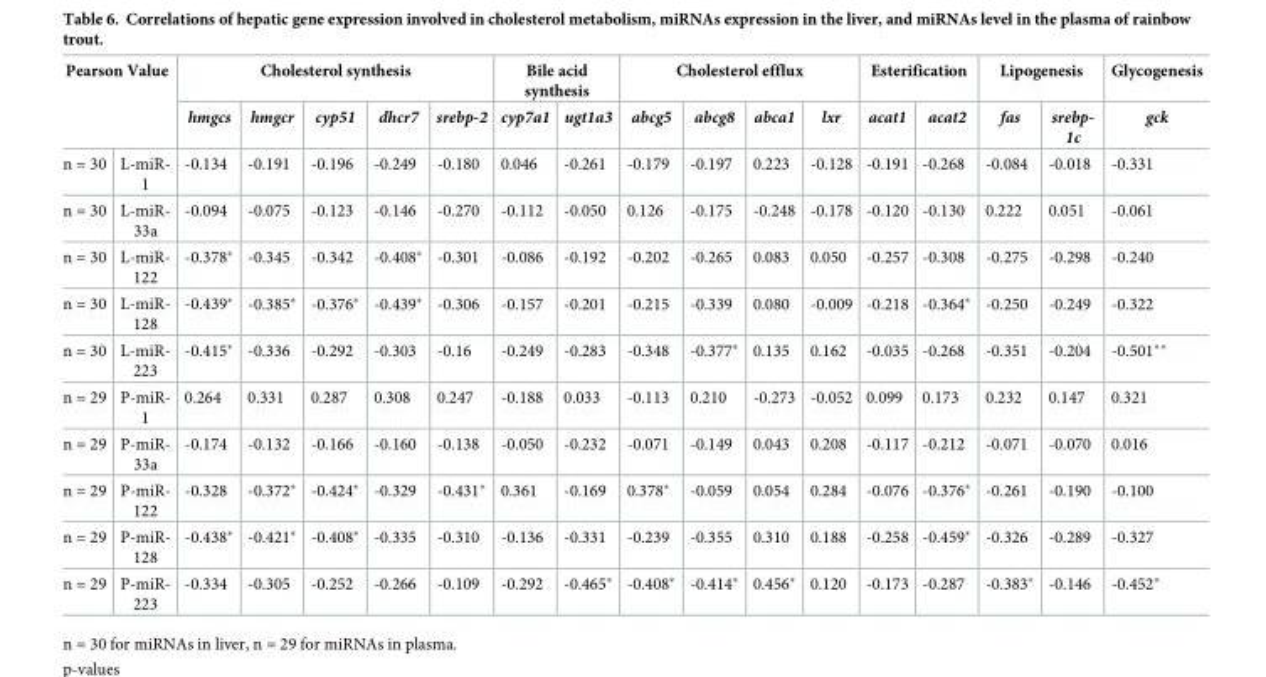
<table><thead><tr><td rowspan="2" colspan="2">Pearson Value</td><td colspan="5">Cholesterol synthesis</td><td colspan="2">Bile acid synthesis</td><td colspan="4">Cholesterol efflux</td><td colspan="2">Esterification</td><td colspan="2">Lipogenesis</td><td rowspan="3">Glycogenesis gck -0.331</td></tr><tr><td rowspan="2">hmgcs -0.134</td><td rowspan="2">hmgcr -0.191</td><td rowspan="2">cyp51 -0.196</td><td rowspan="2">dhcr7 -0.249</td><td rowspan="2">srebp-2 -0.180</td><td rowspan="2">cyp7a1 0.046</td><td rowspan="2">ugt1a3 -0.261</td><td rowspan="2">abcg5 -0.179</td><td rowspan="2">abcg8 -0.197</td><td rowspan="2">abca1 0.223</td><td rowspan="2">lxr -0.128</td><td rowspan="2">acat1 -0.191</td><td rowspan="2">acat2 -0.268</td><td rowspan="2">fas -0.084</td><td rowspan="2">srebp- 1c -0.018</td></tr><tr><td>n = 30</td><td>L-miR- 1</td></tr></thead><tbody><tr><td>n = 30</td><td>L-miR- 33a</td><td>-0.094</td><td>-0.075</td><td>-0.123</td><td>-0.146</td><td>-0.270</td><td>-0.112</td><td>-0.050</td><td>0.126</td><td>-0.175</td><td>-0.248</td><td>-0.178</td><td>-0.120</td><td>-0.130</td><td>0.222</td><td>0.051</td><td>-0.061</td></tr><tr><td>n = 30</td><td>L-miR- 122</td><td>-0.378*</td><td>-0.345</td><td>-0.342</td><td>-0.408*</td><td>-0.301</td><td>-0.086</td><td>-0.192</td><td>-0.202</td><td>-0.265</td><td>0.083</td><td>0.050</td><td>-0.257</td><td>-0.308</td><td>-0.275</td><td>-0.298</td><td>-0.240</td></tr><tr><td>n = 30</td><td>L-miR- 128</td><td>-0.439*</td><td>-0.385*</td><td>-0.376*</td><td>-0.439*</td><td>-0.306</td><td>-0.157</td><td>-0.201</td><td>-0.215</td><td>-0.339</td><td>0.080</td><td>-0.009</td><td>-0.218</td><td>-0.364*</td><td>-0.250</td><td>-0.249</td><td>-0.322</td></tr><tr><td>n = 30</td><td>L-miR- 223</td><td>-0.415*</td><td>-0.336</td><td>-0.292</td><td>-0.303</td><td>-0.16</td><td>-0.249</td><td>-0.283</td><td>-0.348</td><td>-0.377*</td><td>0.135</td><td>0.162</td><td>-0.035</td><td>-0.268</td><td>-0.351</td><td>-0.204</td><td>-0.501**</td></tr><tr><td>n = 29</td><td>P-miR- 1</td><td>0.264</td><td>0.331</td><td>0.287</td><td>0.308</td><td>0.247</td><td>-0.188</td><td>0.033</td><td>-0.113</td><td>0.210</td><td>-0.273</td><td>-0.052</td><td>0.099</td><td>0.173</td><td>0.232</td><td>0.147</td><td>0.321</td></tr><tr><td>n = 29</td><td>P-miR- 33a</td><td>-0.174</td><td>-0.132</td><td>-0.166</td><td>-0.160</td><td>-0.138</td><td>-0.050</td><td>-0.232</td><td>-0.071</td><td>-0.149</td><td>0.043</td><td>0.208</td><td>-0.117</td><td>-0.212</td><td>-0.071</td><td>-0.070</td><td>0.016</td></tr><tr><td>n = 29</td><td>P-miR- 122</td><td>-0.328</td><td>-0.372*</td><td>-0.424*</td><td>-0.329</td><td>-0.431*</td><td>0.361</td><td>-0.169</td><td>0.378*</td><td>-0.059</td><td>0.054</td><td>0.284</td><td>-0.076</td><td>-0.376*</td><td>-0.261</td><td>-0.190</td><td>-0.100</td></tr><tr><td>n = 29</td><td>P-miR- 128</td><td>-0.438*</td><td>-0.421*</td><td>-0.408*</td><td>-0.335</td><td>-0.310</td><td>-0.136</td><td>-0.331</td><td>-0.239</td><td>-0.355</td><td>0.310</td><td>0.188</td><td>-0.258</td><td>-0.459*</td><td>-0.326</td><td>-0.289</td><td>-0.327</td></tr><tr><td>n = 29</td><td>P-miR- 223</td><td>-0.334</td><td>-0.305</td><td>-0.252</td><td>-0.266</td><td>-0.109</td><td>-0.292</td><td>-0.465*</td><td>-0.408*</td><td>-0.414*</td><td>0.456*</td><td>0.120</td><td>-0.173</td><td>-0.287</td><td>-0.383*</td><td>-0.146</td><td>-0.452*</td></tr></tbody></table>